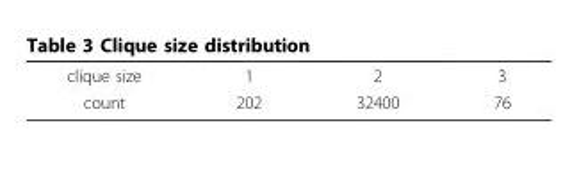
<table><tbody><tr><td>clique size</td><td>1</td><td>2</td><td>3</td></tr><tr><td>count</td><td>202</td><td>32400</td><td>76</td></tr></tbody></table>